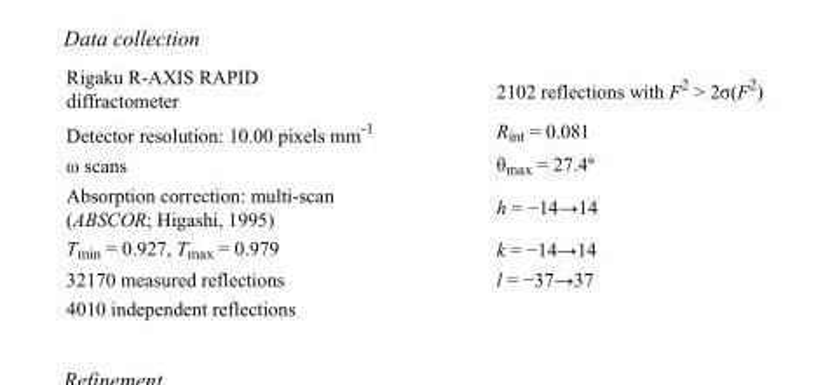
<table><tbody><tr><td>Rigaku R-AXIS RAPID diffractometer</td><td>2102 reflections with F<sup>2</sup> &gt; 2σ(F<sup>2</sup>)</td></tr><tr><td>Detector resolution: 10.00 pixels mm<sup>-1</sup></td><td>R<sub>int</sub> = 0.081</td></tr><tr><td>ω scans</td><td>θmax = 27.4º</td></tr><tr><td>Absorption correction: multi-scan (ABSCOR; Higashi, 1995)</td><td>h = −14→14</td></tr><tr><td>T<sub>min</sub> = 0.927, T<sub>max</sub> = 0.979</td><td>k = −14→14</td></tr><tr><td>32170 measured reflections</td><td>l = −37→37</td></tr><tr><td>4010 independent reflections</td><td></td></tr></tbody></table>